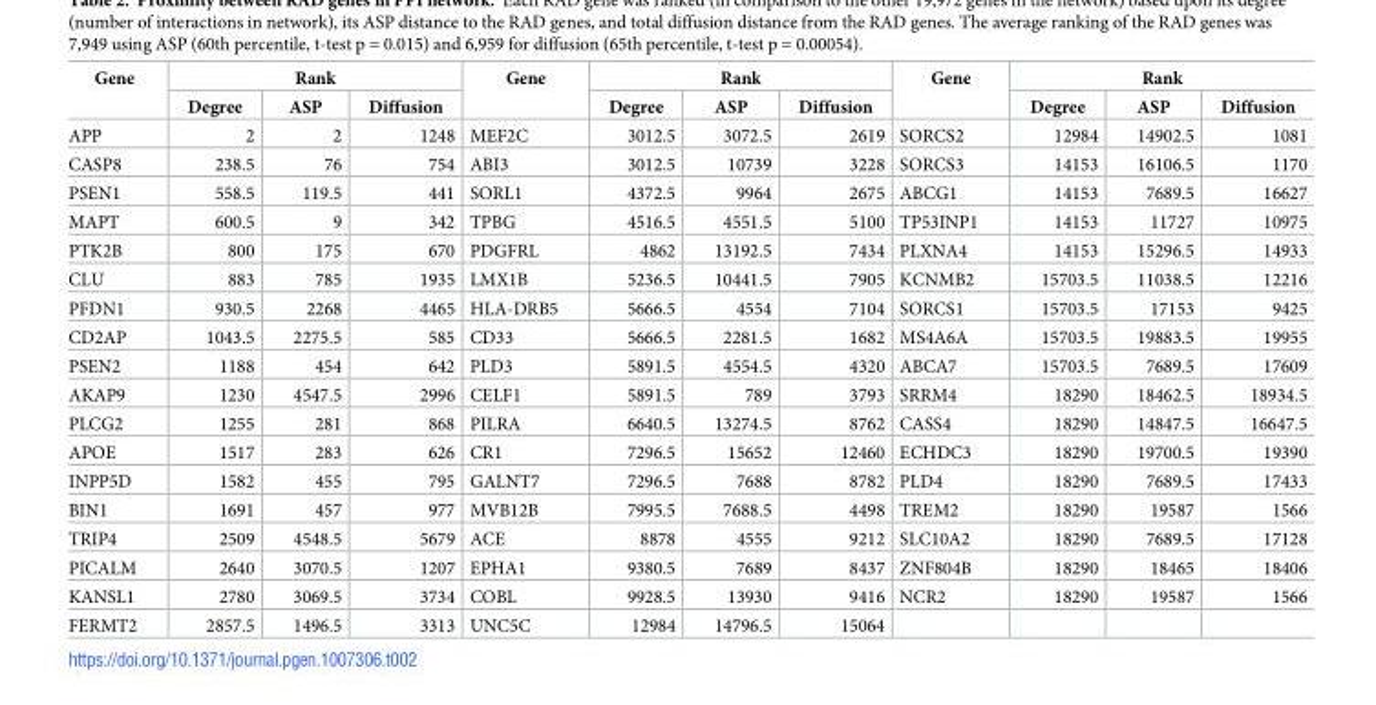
<table><thead><tr><td rowspan="2">Gene</td><td colspan="3">Rank</td><td rowspan="2">Gene</td><td colspan="3">Rank</td><td rowspan="2">Gene</td><td colspan="3">Rank</td></tr><tr><td>Degree</td><td>ASP</td><td>Diffusion</td><td>Degree</td><td>ASP</td><td>Diffusion</td><td>Degree</td><td>ASP</td><td>Diffusion</td></tr></thead><tbody><tr><td>APP</td><td>2</td><td>2</td><td>1248</td><td>MEF2C</td><td>3012.5</td><td>3072.5</td><td>2619</td><td>SORCS2</td><td>12984</td><td>14902.5</td><td>1081</td></tr><tr><td>CASP8</td><td>238.5</td><td>76</td><td>754</td><td>ABI3</td><td>3012.5</td><td>10739</td><td>3228</td><td>SORCS3</td><td>14153</td><td>16106.5</td><td>1170</td></tr><tr><td>PSEN1</td><td>558.5</td><td>119.5</td><td>441</td><td>SORL1</td><td>4372.5</td><td>9964</td><td>2675</td><td>ABCG1</td><td>14153</td><td>7689.5</td><td>16627</td></tr><tr><td>MAPT</td><td>600.5</td><td>9</td><td>342</td><td>TPBG</td><td>4516.5</td><td>4551.5</td><td>5100</td><td>TP53INP1</td><td>14153</td><td>11727</td><td>10975</td></tr><tr><td>PTK2B</td><td>800</td><td>175</td><td>670</td><td>PDGFRL</td><td>4862</td><td>13192.5</td><td>7434</td><td>PLXNA4</td><td>14153</td><td>15296.5</td><td>14933</td></tr><tr><td>CLU</td><td>883</td><td>785</td><td>1935</td><td>LMX1B</td><td>5236.5</td><td>10441.5</td><td>7905</td><td>KCNMB2</td><td>15703.5</td><td>11038.5</td><td>12216</td></tr><tr><td>PFDN1</td><td>930.5</td><td>2268</td><td>4465</td><td>HLA-DRB5</td><td>5666.5</td><td>4554</td><td>7104</td><td>SORCS1</td><td>15703.5</td><td>17153</td><td>9425</td></tr><tr><td>CD2AP</td><td>1043.5</td><td>2275.5</td><td>585</td><td>CD33</td><td>5666.5</td><td>2281.5</td><td>1682</td><td>MS4A6A</td><td>15703.5</td><td>19883.5</td><td>19955</td></tr><tr><td>PSEN2</td><td>1188</td><td>454</td><td>642</td><td>PLD3</td><td>5891.5</td><td>4554.5</td><td>4320</td><td>ABCA7</td><td>15703.5</td><td>7689.5</td><td>17609</td></tr><tr><td>AKAP9</td><td>1230</td><td>4547.5</td><td>2996</td><td>CELF1</td><td>5891.5</td><td>789</td><td>3793</td><td>SRRM4</td><td>18290</td><td>18462.5</td><td>18934.5</td></tr><tr><td>PLCG2</td><td>1255</td><td>281</td><td>868</td><td>PILRA</td><td>6640.5</td><td>13274.5</td><td>8762</td><td>CASS4</td><td>18290</td><td>14847.5</td><td>16647.5</td></tr><tr><td>APOE</td><td>1517</td><td>283</td><td>626</td><td>CR1</td><td>7296.5</td><td>15652</td><td>12460</td><td>ECHDC3</td><td>18290</td><td>19700.5</td><td>19390</td></tr><tr><td>INPP5D</td><td>1582</td><td>455</td><td>795</td><td>GALNT7</td><td>7296.5</td><td>7688</td><td>8782</td><td>PLD4</td><td>18290</td><td>7689.5</td><td>17433</td></tr><tr><td>BIN1</td><td>1691</td><td>457</td><td>977</td><td>MVB12B</td><td>7995.5</td><td>7688.5</td><td>4498</td><td>TREM2</td><td>18290</td><td>19587</td><td>1566</td></tr><tr><td>TRIP4</td><td>2509</td><td>4548.5</td><td>5679</td><td>ACE</td><td>8878</td><td>4555</td><td>9212</td><td>SLC10A2</td><td>18290</td><td>7689.5</td><td>17128</td></tr><tr><td>PICALM</td><td>2640</td><td>3070.5</td><td>1207</td><td>EPHA1</td><td>9380.5</td><td>7689</td><td>8437</td><td>ZNF804B</td><td>18290</td><td>18465</td><td>18406</td></tr><tr><td>KANSL1</td><td>2780</td><td>3069.5</td><td>3734</td><td>COBL</td><td>9928.5</td><td>13930</td><td>9416</td><td>NCR2</td><td>18290</td><td>19587</td><td>1566</td></tr><tr><td>FERMT2</td><td>2857.5</td><td>1496.5</td><td>3313</td><td>UNC5C</td><td>12984</td><td>14796.5</td><td>15064</td><td></td><td></td><td></td><td></td></tr></tbody></table>